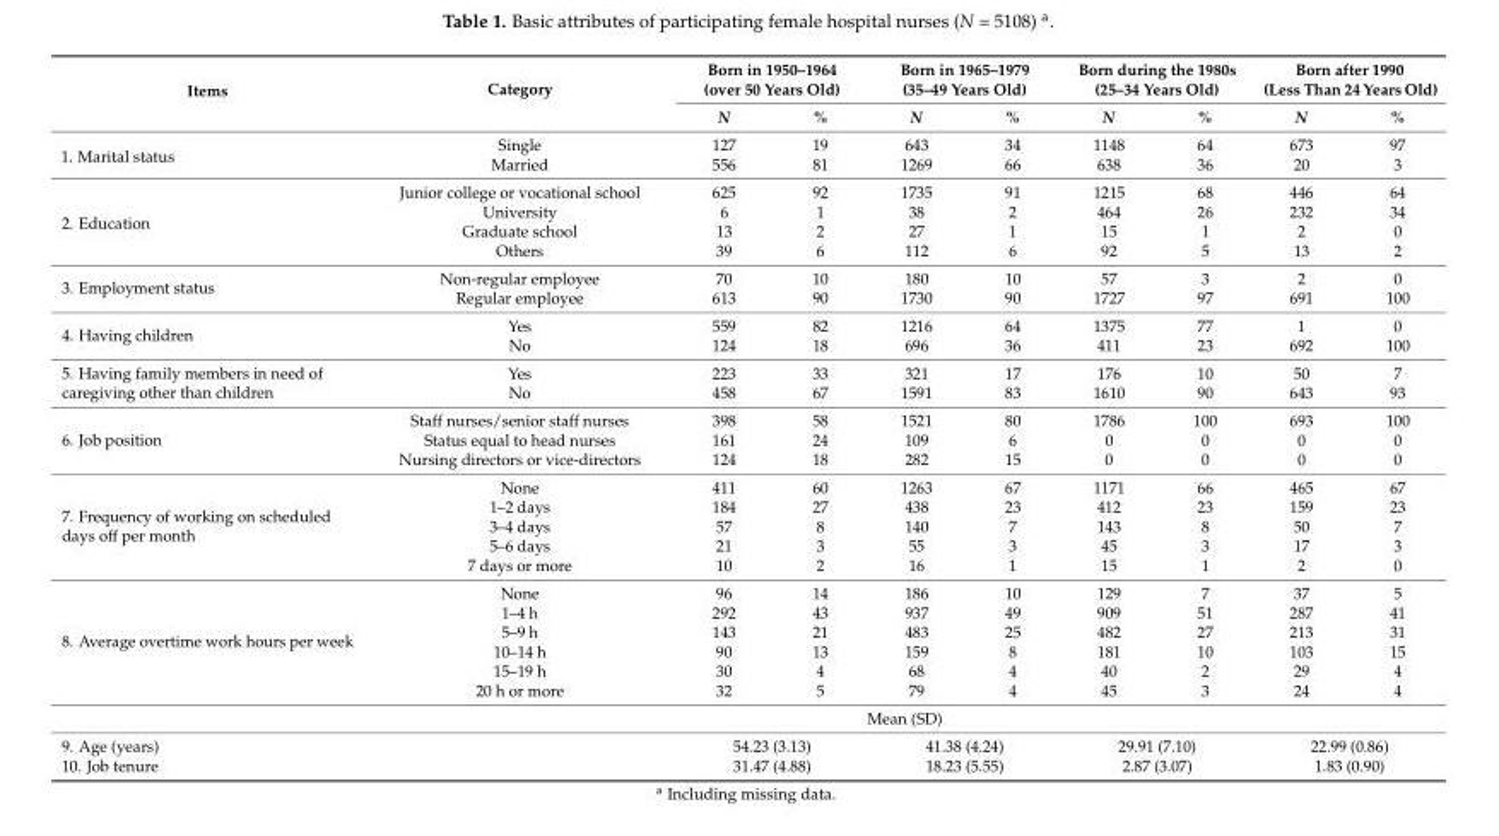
<table><thead><tr><td rowspan="2">Items</td><td rowspan="2">Category</td><td colspan="2">Born in 1950–1964 (over 50 Years Old)</td><td colspan="2">Born in 1965–1979 (35–49 Years Old)</td><td colspan="2">Born during the 1980s (25–34 Years Old)</td><td colspan="2">Born after 1990 (Less Than 24 Years Old)</td></tr><tr><td>N</td><td>%</td><td>N</td><td>%</td><td>N</td><td>%</td><td>N</td><td>%</td></tr></thead><tbody><tr><td rowspan="2">1. Marital status</td><td>Single</td><td>127</td><td>19</td><td>643</td><td>34</td><td>1148</td><td>64</td><td>673</td><td>97</td></tr><tr><td>Married</td><td>556</td><td>81</td><td>1269</td><td>66</td><td>638</td><td>36</td><td>20</td><td>3</td></tr><tr><td rowspan="4">2. Education</td><td>Junior college or vocational school</td><td>625</td><td>92</td><td>1735</td><td>91</td><td>1215</td><td>68</td><td>446</td><td>64</td></tr><tr><td>University</td><td>6</td><td>1</td><td>38</td><td>2</td><td>464</td><td>26</td><td>232</td><td>34</td></tr><tr><td>Graduate school</td><td>13</td><td>2</td><td>27</td><td>1</td><td>15</td><td>1</td><td>2</td><td>0</td></tr><tr><td>Others</td><td>39</td><td>6</td><td>112</td><td>6</td><td>92</td><td>5</td><td>13</td><td>2</td></tr><tr><td rowspan="2">3. Employment status</td><td>Non-regular employee</td><td>70</td><td>10</td><td>180</td><td>10</td><td>57</td><td>3</td><td>2</td><td>0</td></tr><tr><td>Regular employee</td><td>613</td><td>90</td><td>1730</td><td>90</td><td>1727</td><td>97</td><td>691</td><td>100</td></tr><tr><td rowspan="2">4. Having children</td><td>Yes</td><td>559</td><td>82</td><td>1216</td><td>64</td><td>1375</td><td>77</td><td>1</td><td>0</td></tr><tr><td>No</td><td>124</td><td>18</td><td>696</td><td>36</td><td>411</td><td>23</td><td>692</td><td>100</td></tr><tr><td rowspan="2">5. Having family members in need of caregiving other than children</td><td>Yes</td><td>223</td><td>33</td><td>321</td><td>17</td><td>176</td><td>10</td><td>50</td><td>7</td></tr><tr><td>No</td><td>458</td><td>67</td><td>1591</td><td>83</td><td>1610</td><td>90</td><td>643</td><td>93</td></tr><tr><td rowspan="3">6. Job position</td><td>Staff nurses/senior staff nurses</td><td>398</td><td>58</td><td>1521</td><td>80</td><td>1786</td><td>100</td><td>693</td><td>100</td></tr><tr><td>Status equal to head nurses</td><td>161</td><td>24</td><td>109</td><td>6</td><td>0</td><td>0</td><td>0</td><td>0</td></tr><tr><td>Nursing directors or vice-directors</td><td>124</td><td>18</td><td>282</td><td>15</td><td>0</td><td>0</td><td>0</td><td>0</td></tr><tr><td rowspan="5">7. Frequency of working on scheduled days off per month</td><td>None</td><td>411</td><td>60</td><td>1263</td><td>67</td><td>1171</td><td>66</td><td>465</td><td>67</td></tr><tr><td>1–2 days</td><td>184</td><td>27</td><td>438</td><td>23</td><td>412</td><td>23</td><td>159</td><td>23</td></tr><tr><td>3–4 days</td><td>57</td><td>8</td><td>140</td><td>7</td><td>143</td><td>8</td><td>50</td><td>7</td></tr><tr><td>5–6 days</td><td>21</td><td>3</td><td>55</td><td>3</td><td>45</td><td>3</td><td>17</td><td>3</td></tr><tr><td>7 days or more</td><td>10</td><td>2</td><td>16</td><td>1</td><td>15</td><td>1</td><td>2</td><td>0</td></tr><tr><td rowspan="7">8. Average overtime work hours per week</td><td>None</td><td>96</td><td>14</td><td>186</td><td>10</td><td>129</td><td>7</td><td>37</td><td>5</td></tr><tr><td>1–4 h</td><td>292</td><td>43</td><td>937</td><td>49</td><td>909</td><td>51</td><td>287</td><td>41</td></tr><tr><td>5–9 h</td><td>143</td><td>21</td><td>483</td><td>25</td><td>482</td><td>27</td><td>213</td><td>31</td></tr><tr><td>10–14 h</td><td>90</td><td>13</td><td>159</td><td>8</td><td>181</td><td>10</td><td>103</td><td>15</td></tr><tr><td>15–19 h</td><td>30</td><td>4</td><td>68</td><td>4</td><td>40</td><td>2</td><td>29</td><td>4</td></tr><tr><td>20 h or more</td><td>32</td><td>5</td><td>79</td><td>4</td><td>45</td><td>3</td><td>24</td><td>4</td></tr><tr><td colspan="9">Mean (SD)</td></tr><tr><td>9. Age (years)</td><td></td><td colspan="2">54.23 (3.13)</td><td colspan="2">41.38 (4.24)</td><td colspan="2">29.91 (7.10)</td><td colspan="2">22.99 (0.86)</td></tr><tr><td>10. Job tenure</td><td></td><td colspan="2">31.47 (4.88)</td><td colspan="2">18.23 (5.55)</td><td colspan="2">2.87 (3.07)</td><td colspan="2">1.83 (0.90)</td></tr></tbody></table>